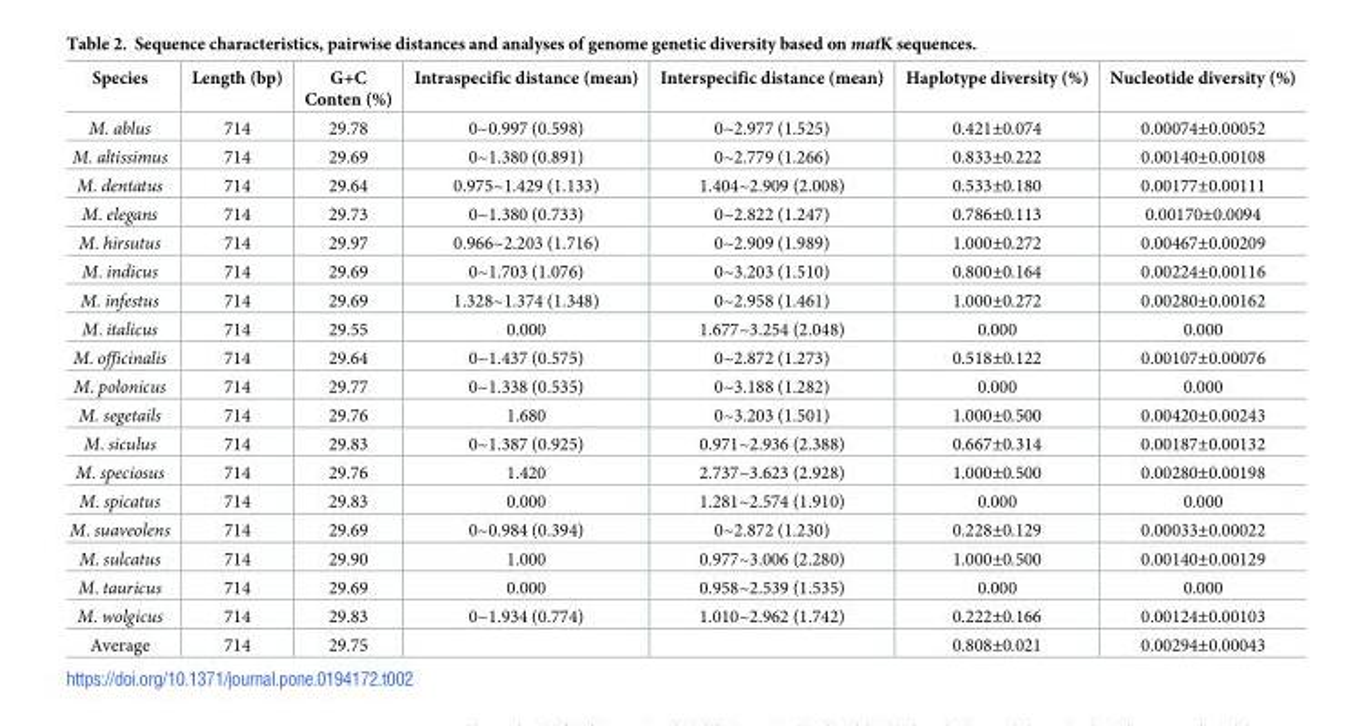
<table><thead><tr><td>Species</td><td>Length (bp)</td><td>G+C Conten (%)</td><td>Intraspecific distance (mean)</td><td>Interspecific distance (mean)</td><td>Haplotype diversity (%)</td><td>Nucleotide diversity (%)</td></tr></thead><tbody><tr><td>M. ablus</td><td>714</td><td>29.78</td><td>0~0.997 (0.598)</td><td>0~2.977 (1.525)</td><td>0.421±0.074</td><td>0.00074±0.00052</td></tr><tr><td>M. altissimus</td><td>714</td><td>29.69</td><td>0~1.380 (0.891)</td><td>0~2.779 (1.266)</td><td>0.833±0.222</td><td>0.00140±0.00108</td></tr><tr><td>M. dentatus</td><td>714</td><td>29.64</td><td>0.975~1.429 (1.133)</td><td>1.404~2.909 (2.008)</td><td>0.533±0.180</td><td>0.00177±0.00111</td></tr><tr><td>M. elegans</td><td>714</td><td>29.73</td><td>0~1.380 (0.733)</td><td>0~2.822 (1.247)</td><td>0.786±0.113</td><td>0.00170±0.0094</td></tr><tr><td>M. hirsutus</td><td>714</td><td>29.97</td><td>0.966~2.203 (1.716)</td><td>0~2.909 (1.989)</td><td>1.000±0.272</td><td>0.00467±0.00209</td></tr><tr><td>M. indicus</td><td>714</td><td>29.69</td><td>0~1.703 (1.076)</td><td>0~3.203 (1.510)</td><td>0.800±0.164</td><td>0.00224±0.00116</td></tr><tr><td>M. infestus</td><td>714</td><td>29.69</td><td>1.328~1.374 (1.348)</td><td>0~2.958 (1.461)</td><td>1.000±0.272</td><td>0.00280±0.00162</td></tr><tr><td>M. italicus</td><td>714</td><td>29.55</td><td>0.000</td><td>1.677~3.254 (2.048)</td><td>0.000</td><td>0.000</td></tr><tr><td>M. officinalis</td><td>714</td><td>29.64</td><td>0~1.437 (0.575)</td><td>0~2.872 (1.273)</td><td>0.518±0.122</td><td>0.00107±0.00076</td></tr><tr><td>M. polonicus</td><td>714</td><td>29.77</td><td>0~1.338 (0.535)</td><td>0~3.188 (1.282)</td><td>0.000</td><td>0.000</td></tr><tr><td>M. segetails</td><td>714</td><td>29.76</td><td>1.680</td><td>0~3.203 (1.501)</td><td>1.000±0.500</td><td>0.00420±0.00243</td></tr><tr><td>M. siculus</td><td>714</td><td>29.83</td><td>0~1.387 (0.925)</td><td>0.971~2.936 (2.388)</td><td>0.667±0.314</td><td>0.00187±0.00132</td></tr><tr><td>M. speciosus</td><td>714</td><td>29.76</td><td>1.420</td><td>2.737~3.623 (2.928)</td><td>1.000±0.500</td><td>0.00280±0.00198</td></tr><tr><td>M. spicatus</td><td>714</td><td>29.83</td><td>0.000</td><td>1.281~2.574 (1.910)</td><td>0.000</td><td>0.000</td></tr><tr><td>M. suaveolens</td><td>714</td><td>29.69</td><td>0~0.984 (0.394)</td><td>0~2.872 (1.230)</td><td>0.228±0.129</td><td>0.00033±0.00022</td></tr><tr><td>M. sulcatus</td><td>714</td><td>29.90</td><td>1.000</td><td>0.977~3.006 (2.280)</td><td>1.000±0.500</td><td>0.00140±0.00129</td></tr><tr><td>M. tauricus</td><td>714</td><td>29.69</td><td>0.000</td><td>0.958~2.539 (1.535)</td><td>0.000</td><td>0.000</td></tr><tr><td>M. wolgicus</td><td>714</td><td>29.83</td><td>0~1.934 (0.774)</td><td>1.010~2.962 (1.742)</td><td>0.222±0.166</td><td>0.00124±0.00103</td></tr><tr><td>Average</td><td>714</td><td>29.75</td><td></td><td></td><td>0.808±0.021</td><td>0.00294±0.00043</td></tr></tbody></table>